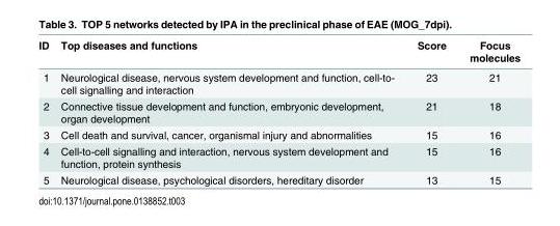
<table><thead><tr><td>ID</td><td>Top diseases and functions</td><td>Score</td><td>Focus molecules</td></tr></thead><tbody><tr><td>1</td><td>Neurological disease, nervous system development and function, cell-to- cell signalling and interaction</td><td>23</td><td>21</td></tr><tr><td>2</td><td>Connective tissue development and function, embryonic development, organ development</td><td>21</td><td>18</td></tr><tr><td>3</td><td>Cell death and survival, cancer, organismal injury and abnormalities</td><td>15</td><td>16</td></tr><tr><td>4</td><td>Cell-to-cell signalling and interaction, nervous system development and function, protein synthesis</td><td>15</td><td>16</td></tr><tr><td>5</td><td>Neurological disease, psychological disorders, hereditary disorder</td><td>13</td><td>15</td></tr></tbody></table>